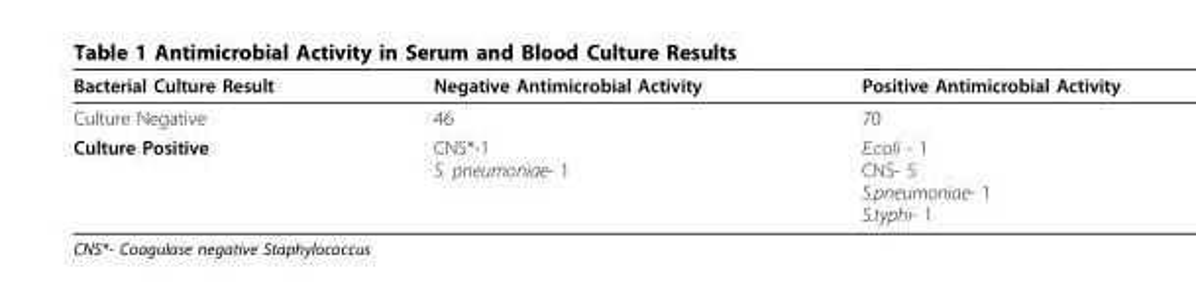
<table><thead><tr><td>Bacterial Culture Result</td><td>Negative Antimicrobial Activity</td><td>Positive Antimicrobial Activity</td></tr></thead><tbody><tr><td>Culture Negative</td><td>46</td><td>70</td></tr><tr><td>Culture Positive</td><td>CNS*-1 S. pneumoniae- 1</td><td>E.coli - 1 CNS- 5 S.pneumoniae- 1 S.typhi- 1</td></tr></tbody></table>